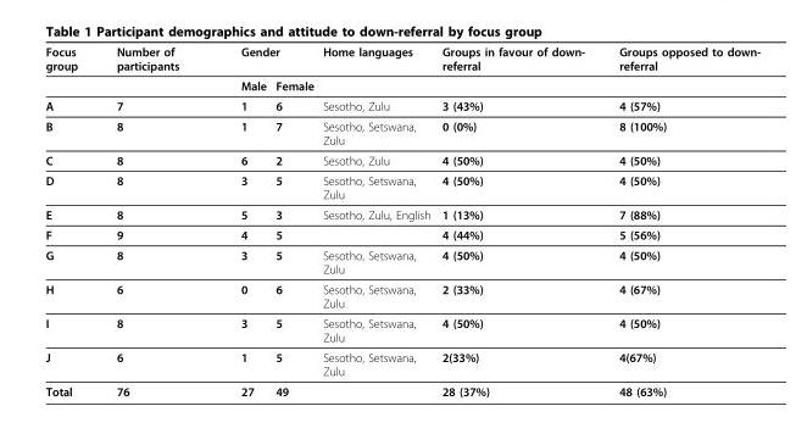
<table><thead><tr><td rowspan="2">Focus group</td><td rowspan="2">Number of participants</td><td colspan="2">Gender</td><td rowspan="2">Home languages</td><td rowspan="2">Groups in favour of down- referral</td><td rowspan="2">Groups opposed to down- referral</td></tr><tr><td>Male</td><td>Female</td></tr></thead><tbody><tr><td>A</td><td>7</td><td>1</td><td>6</td><td>Sesotho, Zulu</td><td>3 (43%)</td><td>4 (57%)</td></tr><tr><td>B</td><td>8</td><td>1</td><td>7</td><td>Sesotho, Setswana, Zulu</td><td>0 (0%)</td><td>8 (100%)</td></tr><tr><td>C</td><td>8</td><td>6</td><td>2</td><td>Sesotho, Zulu</td><td>4 (50%)</td><td>4 (50%)</td></tr><tr><td>D</td><td>8</td><td>3</td><td>5</td><td>Sesotho, Setswana, Zulu</td><td>4 (50%)</td><td>4 (50%)</td></tr><tr><td>E</td><td>8</td><td>5</td><td>3</td><td>Sesotho, Zulu, English</td><td>1 (13%)</td><td>7 (88%)</td></tr><tr><td>F</td><td>9</td><td>4</td><td>5</td><td></td><td>4 (44%)</td><td>5 (56%)</td></tr><tr><td>G</td><td>8</td><td>3</td><td>5</td><td>Sesotho, Setswana, Zulu</td><td>4 (50%)</td><td>4 (50%)</td></tr><tr><td>H</td><td>6</td><td>0</td><td>6</td><td>Sesotho, Setswana, Zulu</td><td>2 (33%)</td><td>4 (67%)</td></tr><tr><td>I</td><td>8</td><td>3</td><td>5</td><td>Sesotho, Setswana, Zulu</td><td>4 (50%)</td><td>4 (50%)</td></tr><tr><td>J</td><td>6</td><td>1</td><td>5</td><td>Sesotho, Setswana, Zulu</td><td>2(33%)</td><td>4(67%)</td></tr><tr><td>Total</td><td>76</td><td>27</td><td>49</td><td></td><td>28 (37%)</td><td>48 (63%)</td></tr></tbody></table>